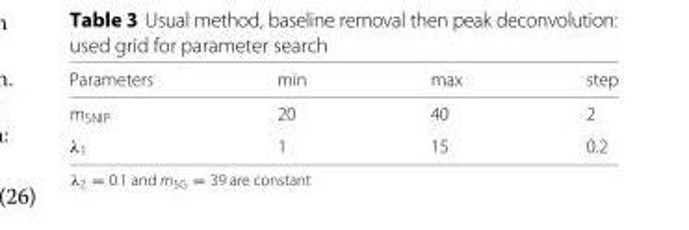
<table><thead><tr><td>Parameters</td><td>min</td><td>max</td><td>step</td></tr></thead><tbody><tr><td>m<sub>SNIP</sub></td><td>20</td><td>40</td><td>2</td></tr><tr><td>λ<sub>1</sub></td><td>1</td><td>15</td><td>0.2</td></tr></tbody></table>